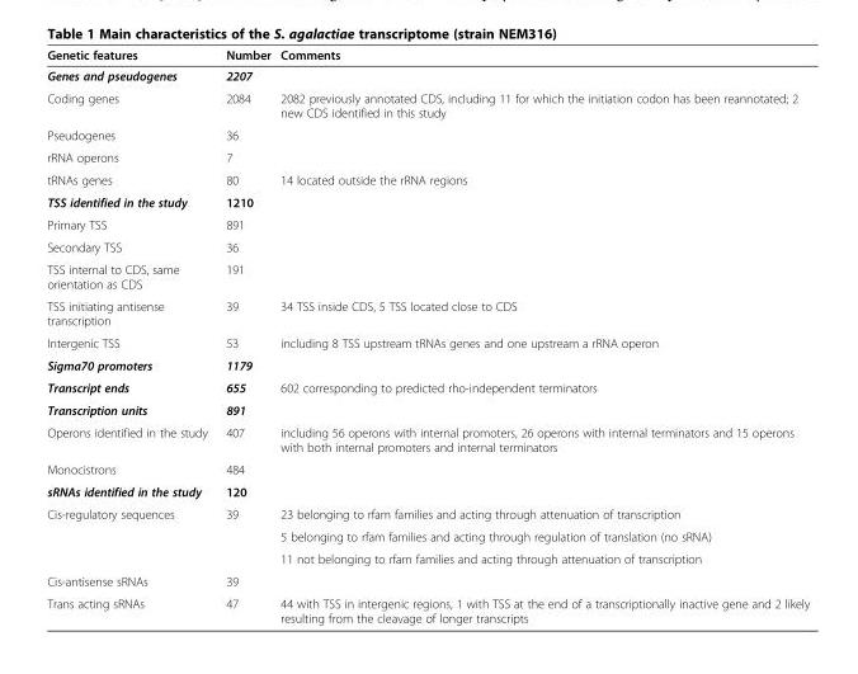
<table><thead><tr><td>Genetic features</td><td>Number</td><td>Comments</td></tr></thead><tbody><tr><td>Genes and pseudogenes</td><td>2207</td><td></td></tr><tr><td>Coding genes</td><td>2084</td><td>2082 previously annotated CDS, including 11 for which the initiation codon has been reannotated; 2 new CDS identified in this study</td></tr><tr><td>Pseudogenes</td><td>36</td><td></td></tr><tr><td>rRNA operons</td><td>7</td><td></td></tr><tr><td>tRNAs genes</td><td>80</td><td>14 located outside the rRNA regions</td></tr><tr><td>TSS identified in the study</td><td>1210</td><td></td></tr><tr><td>Primary TSS</td><td>891</td><td></td></tr><tr><td>Secondary TSS</td><td>36</td><td></td></tr><tr><td>TSS internal to CDS, same orientation as CDS</td><td>191</td><td></td></tr><tr><td>TSS initiating antisense transcription</td><td>39</td><td>34 TSS inside CDS, 5 TSS located close to CDS</td></tr><tr><td>Intergenic TSS</td><td>53</td><td>including 8 TSS upstream tRNAs genes and one upstream a rRNA operon</td></tr><tr><td>Sigma70 promoters</td><td>1179</td><td></td></tr><tr><td>Transcript ends</td><td>655</td><td>602 corresponding to predicted rho-independent terminators</td></tr><tr><td>Transcription units</td><td>891</td><td></td></tr><tr><td>Operons identified in the study</td><td>407</td><td>including 56 operons with internal promoters, 26 operons with internal terminators and 15 operons with both internal promoters and internal terminators</td></tr><tr><td>Monocistrons</td><td>484</td><td></td></tr><tr><td>sRNAs identified in the study</td><td>120</td><td></td></tr><tr><td rowspan="3">Cis-regulatory sequences</td><td rowspan="3">39</td><td>23 belonging to rfam families and acting through attenuation of transcription</td></tr><tr><td>5 belonging to rfam families and acting through regulation of translation (no sRNA)</td></tr><tr><td>11 not belonging to rfam families and acting through attenuation of transcription</td></tr><tr><td>Cis-antisense sRNAs</td><td>39</td><td></td></tr><tr><td>Trans acting sRNAs</td><td>47</td><td>44 with TSS in intergenic regions, 1 with TSS at the end of a transcriptionally inactive gene and 2 likely resulting from the cleavage of longer transcripts</td></tr></tbody></table>